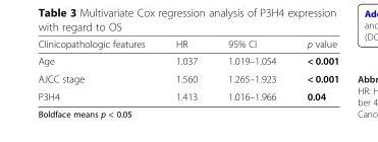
<table><thead><tr><td>Clinicopathologic features</td><td>HR</td><td>95% CI</td><td>p value</td></tr></thead><tbody><tr><td>Age</td><td>1.037</td><td>1.019–1.054</td><td>&lt; 0.001</td></tr><tr><td>AJCC stage</td><td>1.560</td><td>1.265–1.923</td><td>&lt; 0.001</td></tr><tr><td>P3H4</td><td>1.413</td><td>1.016–1.966</td><td>0.04</td></tr></tbody></table>